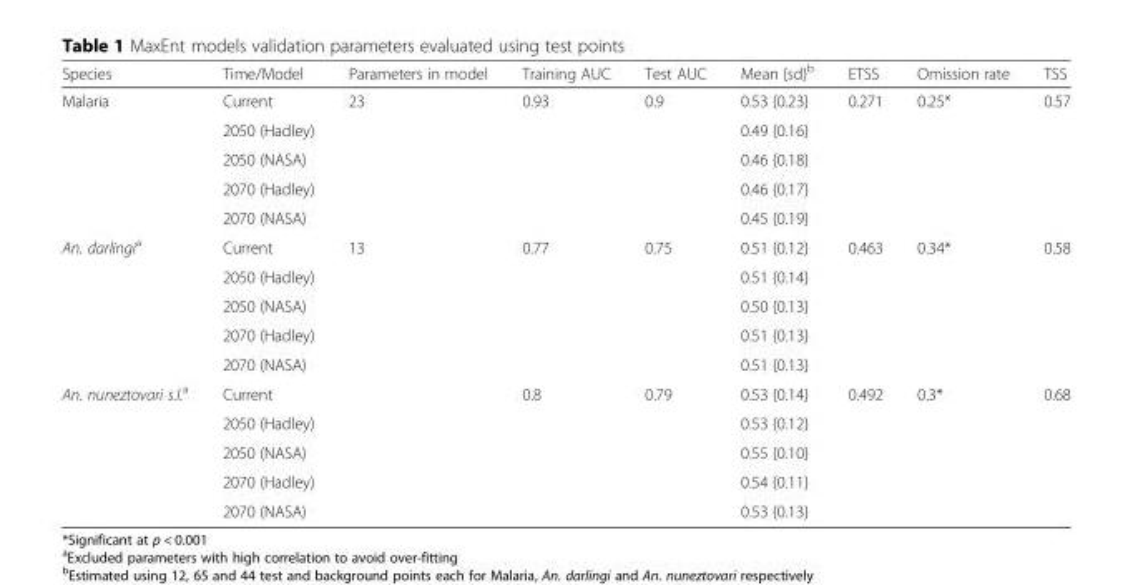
<table><thead><tr><td>Species</td><td>Time/Model</td><td>Parameters in model</td><td>Training AUC</td><td>Test AUC</td><td>Mean {sd}<sup>b</sup></td><td>ETSS</td><td>Omission rate</td><td>TSS</td></tr></thead><tbody><tr><td rowspan="5">Malaria</td><td>Current</td><td rowspan="5">23</td><td rowspan="5">0.93</td><td rowspan="5">0.9</td><td>0.53 {0.23}</td><td rowspan="5">0.271</td><td rowspan="5">0.25*</td><td rowspan="5">0.57</td></tr><tr><td>2050 (Hadley)</td><td>0.49 {0.16}</td></tr><tr><td>2050 (NASA)</td><td>0.46 {0.18}</td></tr><tr><td>2070 (Hadley)</td><td>0.46 {0.17}</td></tr><tr><td>2070 (NASA)</td><td>0.45 {0.19}</td></tr><tr><td rowspan="5">An. darlingi<sup>a</sup></td><td>Current</td><td rowspan="10">13</td><td rowspan="5">0.77</td><td rowspan="5">0.75</td><td>0.51 {0.12}</td><td rowspan="5">0.463</td><td rowspan="5">0.34*</td><td rowspan="5">0.58</td></tr><tr><td>2050 (Hadley)</td><td>0.51 {0.14}</td></tr><tr><td>2050 (NASA)</td><td>0.50 {0.13}</td></tr><tr><td>2070 (Hadley)</td><td>0.51 {0.13}</td></tr><tr><td>2070 (NASA)</td><td>0.51 {0.13}</td></tr><tr><td rowspan="5">An. nuneztovari s.l.<sup>a</sup></td><td>Current</td><td rowspan="5">0.8</td><td rowspan="5">0.79</td><td>0.53 {0.14}</td><td rowspan="5">0.492</td><td rowspan="5">0.3*</td><td rowspan="5">0.68</td></tr><tr><td>2050 (Hadley)</td><td>0.53 {0.12}</td></tr><tr><td>2050 (NASA)</td><td>0.55 {0.10}</td></tr><tr><td>2070 (Hadley)</td><td>0.54 {0.11}</td></tr><tr><td>2070 (NASA)</td><td>0.53 {0.13}</td></tr></tbody></table>